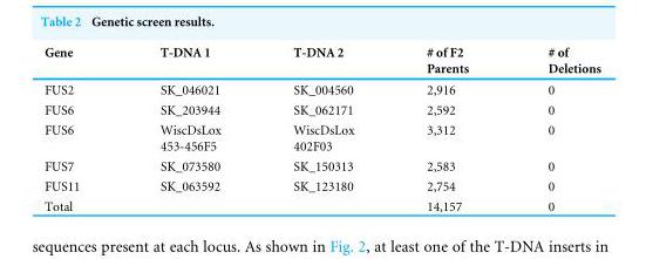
<table><thead><tr><td>Gene</td><td>T-DNA 1</td><td>T-DNA 2</td><td># of F2 Parents</td><td># of Deletions</td></tr></thead><tbody><tr><td>FUS2</td><td>SK_046021</td><td>SK_004560</td><td>2,916</td><td>0</td></tr><tr><td>FUS6</td><td>SK_203944</td><td>SK_062171</td><td>2,592</td><td>0</td></tr><tr><td>FUS6</td><td>WiscDsLox 453-456F5</td><td>WiscDsLox 402F03</td><td>3,312</td><td>0</td></tr><tr><td>FUS7</td><td>SK_073580</td><td>SK_150313</td><td>2,583</td><td>0</td></tr><tr><td>FUS11</td><td>SK_063592</td><td>SK_123180</td><td>2,754</td><td>0</td></tr><tr><td>Total</td><td></td><td></td><td>14,157</td><td>0</td></tr></tbody></table>